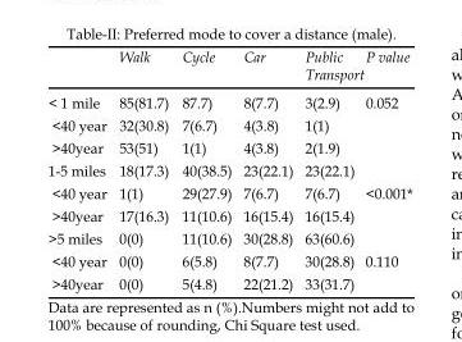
<table><thead><tr><td></td><td>Walk</td><td>Cycle</td><td>Car</td><td>Public Transport</td><td>P value</td></tr></thead><tbody><tr><td>&lt; 1 mile</td><td>85(81.7)</td><td>87.7)</td><td>8(7.7)</td><td>3(2.9)</td><td>0.052</td></tr><tr><td>&lt;40 year</td><td>32(30.8)</td><td>7(6.7)</td><td>4(3.8)</td><td>1(1)</td><td></td></tr><tr><td>&gt;40year</td><td>53(51)</td><td>1(1)</td><td>4(3.8)</td><td>2(1.9)</td><td></td></tr><tr><td>1-5 miles</td><td>18(17.3)</td><td>40(38.5)</td><td>23(22.1)</td><td>23(22.1)</td><td></td></tr><tr><td>&lt;40 year</td><td>1(1)</td><td>29(27.9)</td><td>7(6.7)</td><td>7(6.7)</td><td>&lt;0.001*</td></tr><tr><td>&gt;40year</td><td>17(16.3)</td><td>11(10.6)</td><td>16(15.4)</td><td>16(15.4)</td><td></td></tr><tr><td>&gt;5 miles</td><td>0(0)</td><td>11(10.6)</td><td>30(28.8)</td><td>63(60.6)</td><td></td></tr><tr><td>&lt;40 year</td><td>0(0)</td><td>6(5.8)</td><td>8(7.7)</td><td>30(28.8)</td><td>0.110</td></tr><tr><td>&gt;40year</td><td>0(0)</td><td>5(4.8)</td><td>22(21.2)</td><td>33(31.7)</td><td></td></tr></tbody></table>